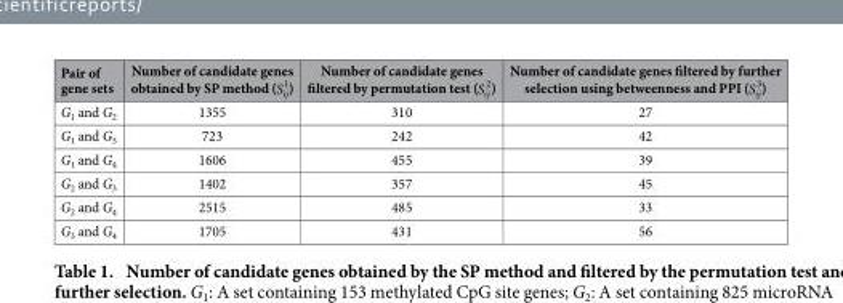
<table><thead><tr><td>Pair of gene sets</td><td>Number of candidate genes obtained by SP method (Sij 1)</td><td>Number of candidate genes filtered by permutation test (Sij 2)</td><td>Number of candidate genes filtered by further selection using betweenness and PPI (Sij 3)</td></tr></thead><tbody><tr><td>G<sub>1</sub> and G<sub>2</sub></td><td>1355</td><td>310</td><td>27</td></tr><tr><td>G<sub>1</sub> and G<sub>3</sub></td><td>723</td><td>242</td><td>42</td></tr><tr><td>G<sub>1</sub> and G<sub>4</sub></td><td>1606</td><td>455</td><td>39</td></tr><tr><td>G<sub>2</sub> and G<sub>3</sub></td><td>1402</td><td>357</td><td>45</td></tr><tr><td>G<sub>2</sub> and G<sub>4</sub></td><td>2515</td><td>485</td><td>33</td></tr><tr><td>G<sub>3</sub> and G<sub>4</sub></td><td>1705</td><td>431</td><td>56</td></tr></tbody></table>